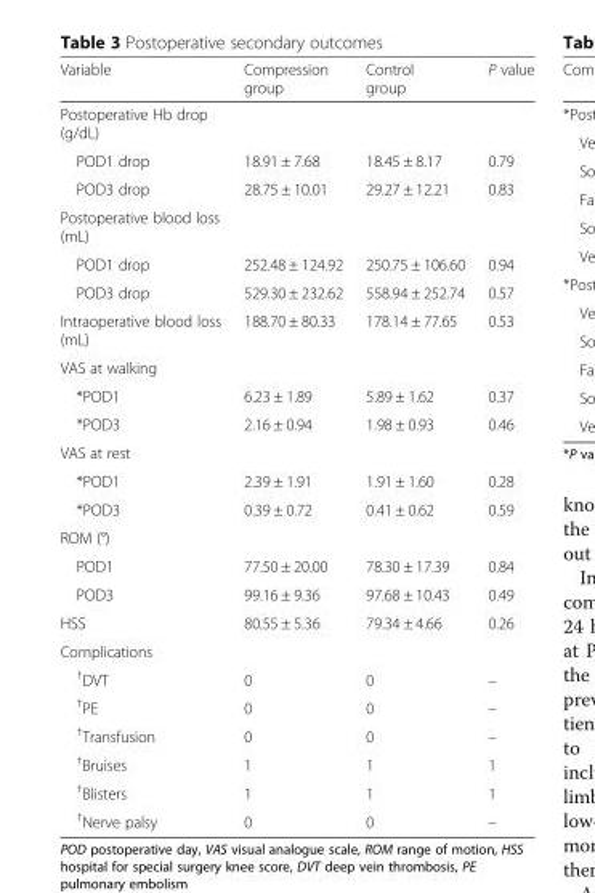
<table><thead><tr><td>Variable</td><td>Compression group</td><td>Control group</td><td>P value</td></tr></thead><tbody><tr><td colspan="4">Postoperative Hb drop (g/dL)</td></tr><tr><td>POD1 drop</td><td>18.91 ± 7.68</td><td>18.45 ± 8.17</td><td>0.79</td></tr><tr><td>POD3 drop</td><td>28.75 ± 10.01</td><td>29.27 ± 12.21</td><td>0.83</td></tr><tr><td colspan="4">Postoperative blood loss (mL)</td></tr><tr><td>POD1 drop</td><td>252.48 ± 124.92</td><td>250.75 ± 106.60</td><td>0.94</td></tr><tr><td>POD3 drop</td><td>529.30 ± 232.62</td><td>558.94 ± 252.74</td><td>0.57</td></tr><tr><td>Intraoperative blood loss (mL)</td><td>188.70 ± 80.33</td><td>178.14 ± 77.65</td><td>0.53</td></tr><tr><td colspan="4">VAS at walking</td></tr><tr><td>*POD1</td><td>6.23 ± 1.89</td><td>5.89 ± 1.62</td><td>0.37</td></tr><tr><td>*POD3</td><td>2.16 ± 0.94</td><td>1.98 ± 0.93</td><td>0.46</td></tr><tr><td colspan="4">VAS at rest</td></tr><tr><td>*POD1</td><td>2.39 ± 1.91</td><td>1.91 ± 1.60</td><td>0.28</td></tr><tr><td>*POD3</td><td>0.39 ± 0.72</td><td>0.41 ± 0.62</td><td>0.59</td></tr><tr><td colspan="4">ROM (°)</td></tr><tr><td>POD1</td><td>77.50 ± 20.00</td><td>78.30 ± 17.39</td><td>0.84</td></tr><tr><td>POD3</td><td>99.16 ± 9.36</td><td>97.68 ± 10.43</td><td>0.49</td></tr><tr><td>HSS</td><td>80.55 ± 5.36</td><td>79.34 ± 4.66</td><td>0.26</td></tr><tr><td colspan="4">Complications</td></tr><tr><td><sup>†</sup>DVT</td><td>0</td><td>0</td><td>–</td></tr><tr><td><sup>†</sup>PE</td><td>0</td><td>0</td><td>–</td></tr><tr><td><sup>†</sup>Transfusion</td><td>0</td><td>0</td><td>–</td></tr><tr><td><sup>†</sup>Bruises</td><td>1</td><td>1</td><td>1</td></tr><tr><td><sup>†</sup>Blisters</td><td>1</td><td>1</td><td>1</td></tr><tr><td><sup>†</sup>Nerve palsy</td><td>0</td><td>0</td><td>–</td></tr></tbody></table>